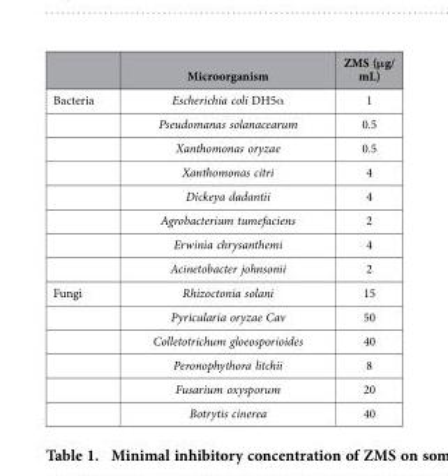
<table><thead><tr><td></td><td>Microorganism</td><td>ZMS (μg/ mL)</td></tr></thead><tbody><tr><td rowspan="8">Bacteria</td><td>Escherichia coli DH5α</td><td>1</td></tr><tr><td>Pseudomanas solanacearum</td><td>0.5</td></tr><tr><td>Xanthomonas oryzae</td><td>0.5</td></tr><tr><td>Xanthomonas citri</td><td>4</td></tr><tr><td>Dickeya dadantii</td><td>4</td></tr><tr><td>Agrobacterium tumefaciens</td><td>2</td></tr><tr><td>Erwinia chrysanthemi</td><td>4</td></tr><tr><td>Acinetobacter johnsonii</td><td>2</td></tr><tr><td rowspan="6">Fungi</td><td>Rhizoctonia solani</td><td>15</td></tr><tr><td>Pyricularia oryzae Cav</td><td>50</td></tr><tr><td>Colletotrichum gloeosporioides</td><td>40</td></tr><tr><td>Peronophythora litchii</td><td>8</td></tr><tr><td>Fusarium oxysporum</td><td>20</td></tr><tr><td>Botrytis cinerea</td><td>40</td></tr></tbody></table>